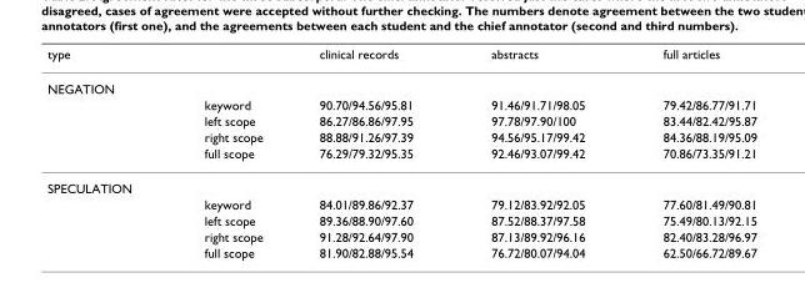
<table><thead><tr><td>type</td><td></td><td>clinical records</td><td>abstracts</td><td>full articles</td></tr></thead><tbody><tr><td colspan="5">NEGATION</td></tr><tr><td></td><td>keyword</td><td>90.70/94.56/95.81</td><td>91.46/91.71/98.05</td><td>79.42/86.77/91.71</td></tr><tr><td></td><td>left scope</td><td>86.27/86.86/97.95</td><td>97.78/97.90/100</td><td>83.44/82.42/95.87</td></tr><tr><td></td><td>right scope</td><td>88.88/91.26/97.39</td><td>94.56/95.17/99.42</td><td>84.36/88.19/95.09</td></tr><tr><td></td><td>full scope</td><td>76.29/79.32/95.35</td><td>92.46/93.07/99.42</td><td>70.86/73.35/91.21</td></tr><tr><td colspan="5">SPECULATION</td></tr><tr><td></td><td>keyword</td><td>84.01/89.86/92.37</td><td>79.12/83.92/92.05</td><td>77.60/81.49/90.81</td></tr><tr><td></td><td>left scope</td><td>89.36/88.90/97.60</td><td>87.52/88.37/97.58</td><td>75.49/80.13/92.15</td></tr><tr><td></td><td>right scope</td><td>91.28/92.64/97.90</td><td>87.13/89.92/96.16</td><td>82.40/83.28/96.97</td></tr><tr><td></td><td>full scope</td><td>81.90/82.88/95.54</td><td>76.72/80.07/94.04</td><td>62.50/66.72/89.67</td></tr></tbody></table>